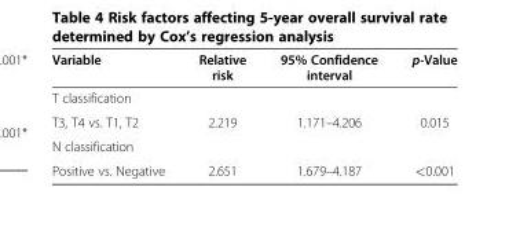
<table><thead><tr><td>Variable</td><td>Relative risk</td><td>95% Confidence interval</td><td>p-Value</td></tr></thead><tbody><tr><td colspan="4">T classification</td></tr><tr><td>T3, T4 vs. T1, T2</td><td>2.219</td><td>1.171–4.206</td><td>0.015</td></tr><tr><td colspan="4">N classification</td></tr><tr><td>Positive vs. Negative</td><td>2.651</td><td>1.679–4.187</td><td>&lt;0.001</td></tr></tbody></table>